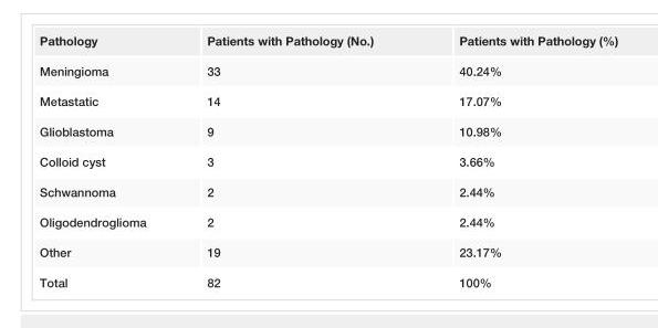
<table><tbody><tr><td>Pathology</td><td>Patients with Pathology (No.)</td><td>Patients with Pathology (%)</td></tr><tr><td>Meningioma</td><td>33</td><td>40.24%</td></tr><tr><td>Metastatic</td><td>14</td><td>17.07%</td></tr><tr><td>Glioblastoma</td><td>9</td><td>10.98%</td></tr><tr><td>Colloid cyst</td><td>3</td><td>3.66%</td></tr><tr><td>Schwannoma</td><td>2</td><td>2.44%</td></tr><tr><td>Oligodendroglioma</td><td>2</td><td>2.44%</td></tr><tr><td>Other</td><td>19</td><td>23.17%</td></tr><tr><td>Total</td><td>82</td><td>100%</td></tr></tbody></table>